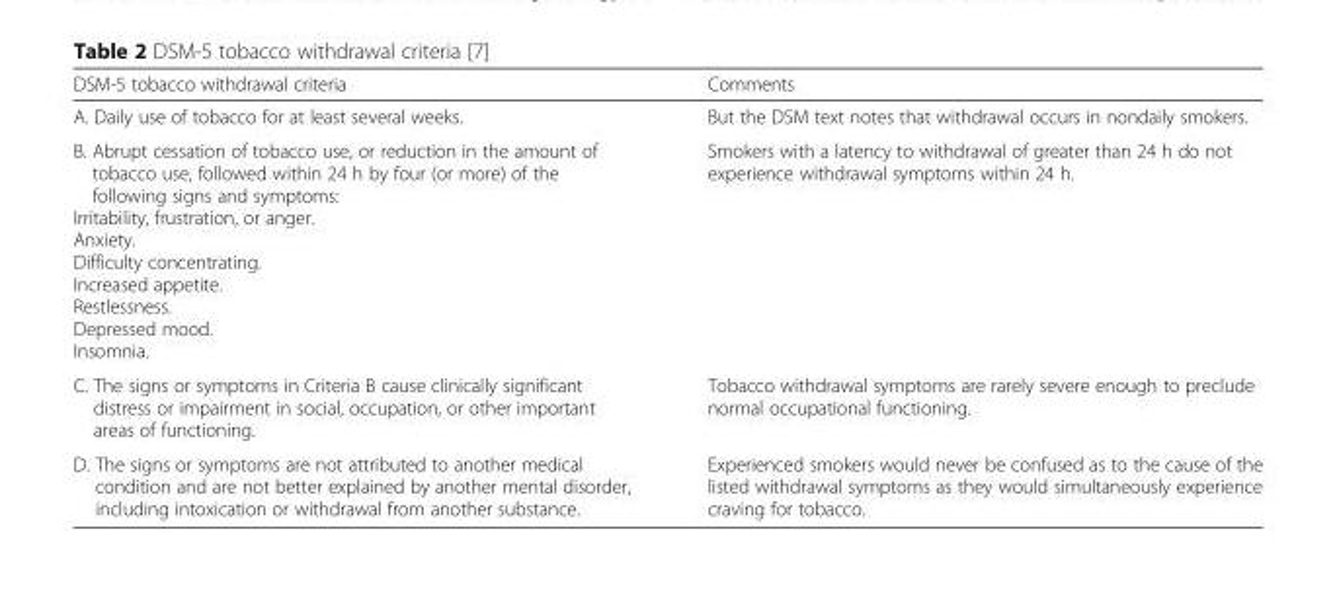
<table><thead><tr><td>DSM-5 tobacco withdrawal criteria</td><td>Comments</td></tr></thead><tbody><tr><td>A. Daily use of tobacco for at least several weeks.</td><td>But the DSM text notes that withdrawal occurs in nondaily smokers.</td></tr><tr><td>B. Abrupt cessation of tobacco use, or reduction in the amount of tobacco use, followed within 24 h by four (or more) of the following signs and symptoms: Irritability, frustration, or anger. Anxiety. Difficulty concentrating. Increased appetite. Restlessness. Depressed mood. Insomnia.</td><td>Smokers with a latency to withdrawal of greater than 24 h do not experience withdrawal symptoms within 24 h.</td></tr><tr><td>C. The signs or symptoms in Criteria B cause clinically significant distress or impairment in social, occupation, or other important areas of functioning.</td><td>Tobacco withdrawal symptoms are rarely severe enough to preclude normal occupational functioning.</td></tr><tr><td>D. The signs or symptoms are not attributed to another medical condition and are not better explained by another mental disorder, including intoxication or withdrawal from another substance.</td><td>Experienced smokers would never be confused as to the cause of the listed withdrawal symptoms as they would simultaneously experience craving for tobacco.</td></tr></tbody></table>